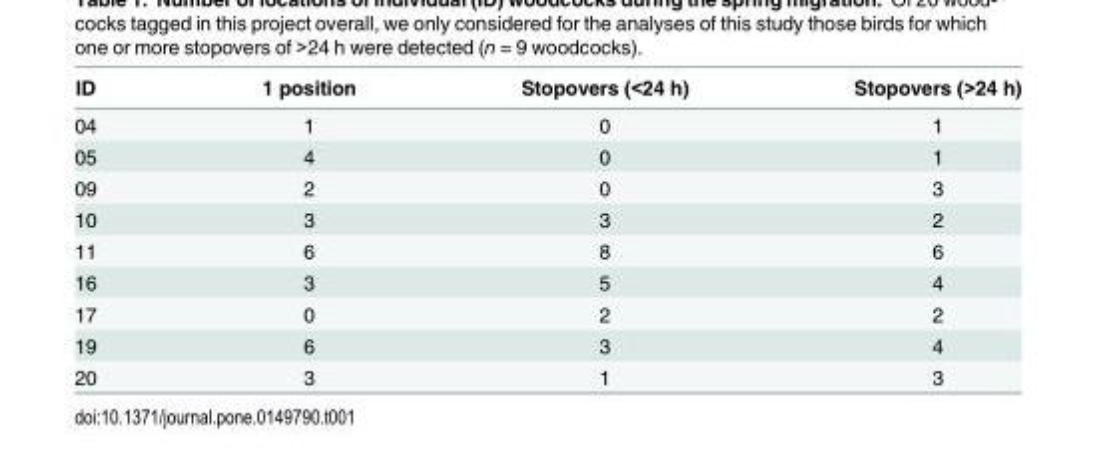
<table><thead><tr><td>ID</td><td>1 position</td><td>Stopovers (&lt;24 h)</td><td>Stopovers (&gt;24 h)</td></tr></thead><tbody><tr><td>04</td><td>1</td><td>0</td><td>1</td></tr><tr><td>05</td><td>4</td><td>0</td><td>1</td></tr><tr><td>09</td><td>2</td><td>0</td><td>3</td></tr><tr><td>10</td><td>3</td><td>3</td><td>2</td></tr><tr><td>11</td><td>6</td><td>8</td><td>6</td></tr><tr><td>16</td><td>3</td><td>5</td><td>4</td></tr><tr><td>17</td><td>0</td><td>2</td><td>2</td></tr><tr><td>19</td><td>6</td><td>3</td><td>4</td></tr><tr><td>20</td><td>3</td><td>1</td><td>3</td></tr></tbody></table>